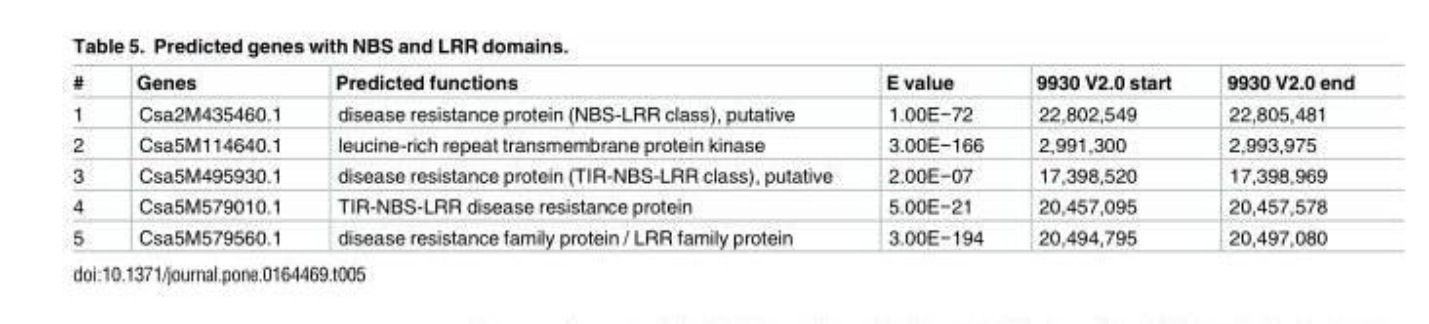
<table><thead><tr><td>#</td><td>Genes</td><td>Predicted functions</td><td>E value</td><td>9930 V2.0 start</td><td>9930 V2.0 end</td></tr></thead><tbody><tr><td>1</td><td>Csa2M435460.1</td><td>disease resistance protein (NBS-LRR class), putative</td><td>1.00E−72</td><td>22,802,549</td><td>22,805,481</td></tr><tr><td>2</td><td>Csa5M114640.1</td><td>leucine-rich repeat transmembrane protein kinase</td><td>3.00E−166</td><td>2,991,300</td><td>2,993,975</td></tr><tr><td>3</td><td>Csa5M495930.1</td><td>disease resistance protein (TIR-NBS-LRR class), putative</td><td>2.00E−07</td><td>17,398,520</td><td>17,398,969</td></tr><tr><td>4</td><td>Csa5M579010.1</td><td>TIR-NBS-LRR disease resistance protein</td><td>5.00E−21</td><td>20,457,095</td><td>20,457,578</td></tr><tr><td>5</td><td>Csa5M579560.1</td><td>disease resistance family protein / LRR family protein</td><td>3.00E−194</td><td>20,494,795</td><td>20,497,080</td></tr></tbody></table>